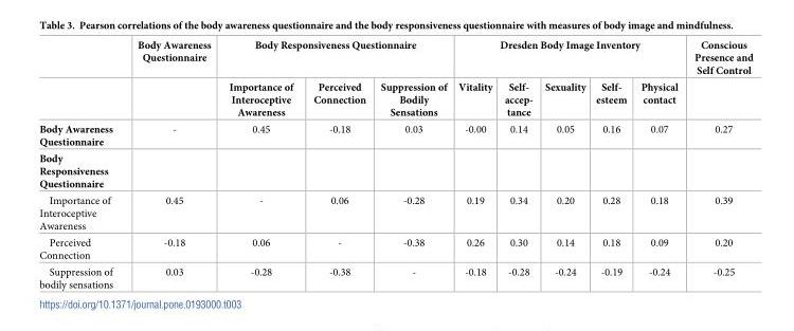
<table><thead><tr><td rowspan="2"></td><td rowspan="2">Body Awareness Questionnaire</td><td colspan="3">Body Responsiveness Questionnaire</td><td colspan="5">Dresden Body Image Inventory</td><td rowspan="2">Conscious Presence and Self Control</td></tr><tr><td>Importance of Interoceptive Awareness</td><td>Perceived Connection</td><td>Suppression of Bodily Sensations</td><td>Vitality</td><td>Self- accep- tance</td><td>Sexuality</td><td>Self- esteem</td><td>Physical contact</td></tr></thead><tbody><tr><td>Body Awareness Questionnaire</td><td>-</td><td>0.45</td><td>-0.18</td><td>0.03</td><td>-0.00</td><td>0.14</td><td>0.05</td><td>0.16</td><td>0.07</td><td>0.27</td></tr><tr><td colspan="11">Body Responsiveness Questionnaire</td></tr><tr><td>Importance of Interoceptive Awareness</td><td>0.45</td><td>-</td><td>0.06</td><td>-0.28</td><td>0.19</td><td>0.34</td><td>0.20</td><td>0.28</td><td>0.18</td><td>0.39</td></tr><tr><td>Perceived Connection</td><td>-0.18</td><td>0.06</td><td>-</td><td>-0.38</td><td>0.26</td><td>0.30</td><td>0.14</td><td>0.18</td><td>0.09</td><td>0.20</td></tr><tr><td>Suppression of bodily sensations</td><td>0.03</td><td>-0.28</td><td>-0.38</td><td>-</td><td>-0.18</td><td>-0.28</td><td>-0.24</td><td>-0.19</td><td>-0.24</td><td>-0.25</td></tr></tbody></table>